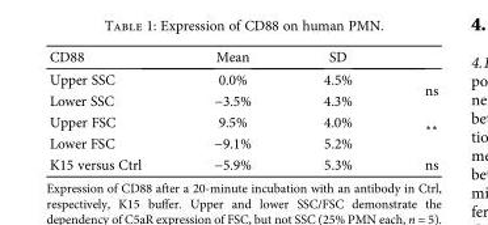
<table><thead><tr><td>CD88</td><td>Mean</td><td>SD</td><td></td></tr></thead><tbody><tr><td>Upper SSC</td><td>0.0%</td><td>4.5%</td><td rowspan="2">ns</td></tr><tr><td>Lower SSC</td><td>−3.5%</td><td>4.3%</td></tr><tr><td>Upper FSC</td><td>9.5%</td><td>4.0%</td><td rowspan="2">∗∗</td></tr><tr><td>Lower FSC</td><td>−9.1%</td><td>5.2%</td></tr><tr><td>K15 versus Ctrl</td><td>−5.9%</td><td>5.3%</td><td>ns</td></tr></tbody></table>